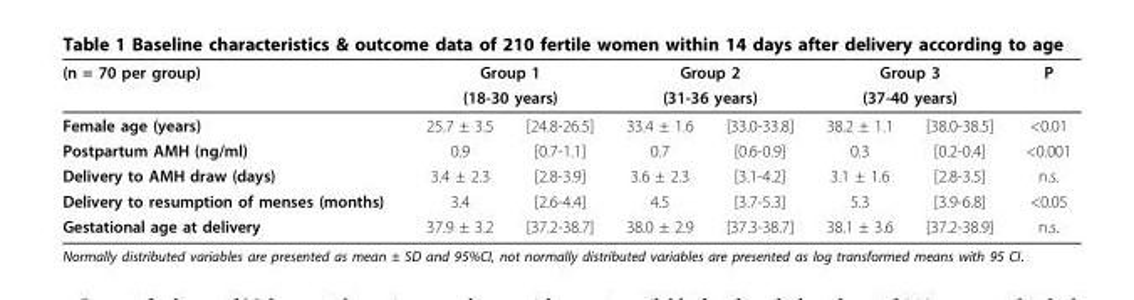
<table><thead><tr><td rowspan="3">(n = 70 per group) Female age (years)</td><td rowspan="2" colspan="2">Group 1 (18-30 years)</td><td rowspan="2" colspan="2">Group 2 (31-36 years)</td><td rowspan="2" colspan="2">Group 3 (37-40 years)</td><td rowspan="3">P &lt;0.01</td></tr><tr></tr><tr><td>25.7 ± 3.5</td><td>[24.8-26.5]</td><td>33.4 ± 1.6</td><td>[33.0-33.8]</td><td>38.2 ± 1.1</td><td>[38.0-38.5]</td></tr></thead><tbody><tr><td>Postpartum AMH (ng/ml)</td><td>0.9</td><td>[0.7-1.1]</td><td>0.7</td><td>[0.6-0.9]</td><td>0.3</td><td>[0.2-0.4]</td><td>&lt;0.001</td></tr><tr><td>Delivery to AMH draw (days)</td><td>3.4 ± 2.3</td><td>[2.8-3.9]</td><td>3.6 ± 2.3</td><td>[3.1-4.2]</td><td>3.1 ± 1.6</td><td>[2.8-3.5]</td><td>n.s.</td></tr><tr><td>Delivery to resumption of menses (months)</td><td>3.4</td><td>[2.6-4.4]</td><td>4.5</td><td>[3.7-5.3]</td><td>5.3</td><td>[3.9-6.8]</td><td>&lt;0.05</td></tr><tr><td>Gestational age at delivery</td><td>37.9 ± 3.2</td><td>[37.2-38.7]</td><td>38.0 ± 2.9</td><td>[37.3-38.7]</td><td>38.1 ± 3.6</td><td>[37.2-38.9]</td><td>n.s.</td></tr></tbody></table>